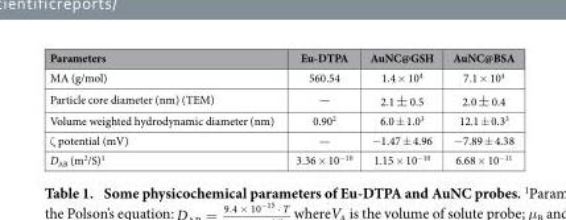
<table><thead><tr><td>Parameters</td><td>Eu-DTPA</td><td>AuNC@GSH</td><td>AuNC@BSA</td></tr></thead><tbody><tr><td>MA (g/mol)</td><td>560.54</td><td>1.4 × 10<sup>4</sup></td><td>7.1 × 10<sup>4</sup></td></tr><tr><td>Particle core diameter (nm) (TEM)</td><td>—</td><td>2.1 ± 0.5</td><td>2.0 ± 0.4</td></tr><tr><td>Volume weighted hydrodynamic diameter (nm)</td><td>0.90<sup>2</sup></td><td>6.0 ± 1.0<sup>3</sup></td><td>12.1 ± 0.3<sup>3</sup></td></tr><tr><td>ζ potential (mV)</td><td>—</td><td>− 1.47 ± 4.96</td><td>− 7.89 ± 4.38</td></tr><tr><td>D<sub>AB</sub> (m<sup>2</sup>/S)<sup>1</sup></td><td>3.36 × 10<sup>−10</sup></td><td>1.15 × 10<sup>−10</sup></td><td>6.68 × 10<sup>−11</sup></td></tr></tbody></table>